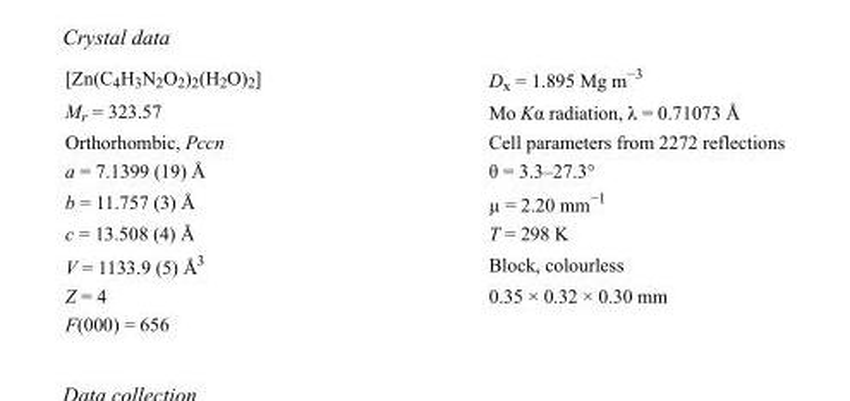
<table><tbody><tr><td>[Zn(C<sub>4</sub>H<sub>3</sub>N<sub>2</sub>O<sub>2</sub>)<sub>2</sub>(H<sub>2</sub>O)<sub>2</sub>]</td><td>D<sub>x</sub> = 1.895 Mg m<sup>−3</sup></td></tr><tr><td>M<sub>r</sub> = 323.57</td><td>Mo Kα radiation, λ = 0.71073 Å</td></tr><tr><td>Orthorhombic, Pccn</td><td>Cell parameters from 2272 reflections</td></tr><tr><td>a = 7.1399 (19) Å</td><td>θ = 3.3–27.3°</td></tr><tr><td>b = 11.757 (3) Å</td><td>µ = 2.20 mm<sup>−1</sup></td></tr><tr><td>c = 13.508 (4) Å</td><td>T = 298 K</td></tr><tr><td>V = 1133.9 (5) Å<sup>3</sup></td><td>Block, colourless</td></tr><tr><td>Z = 4</td><td>0.35 × 0.32 × 0.30 mm</td></tr><tr><td>F(000) = 656</td><td></td></tr></tbody></table>